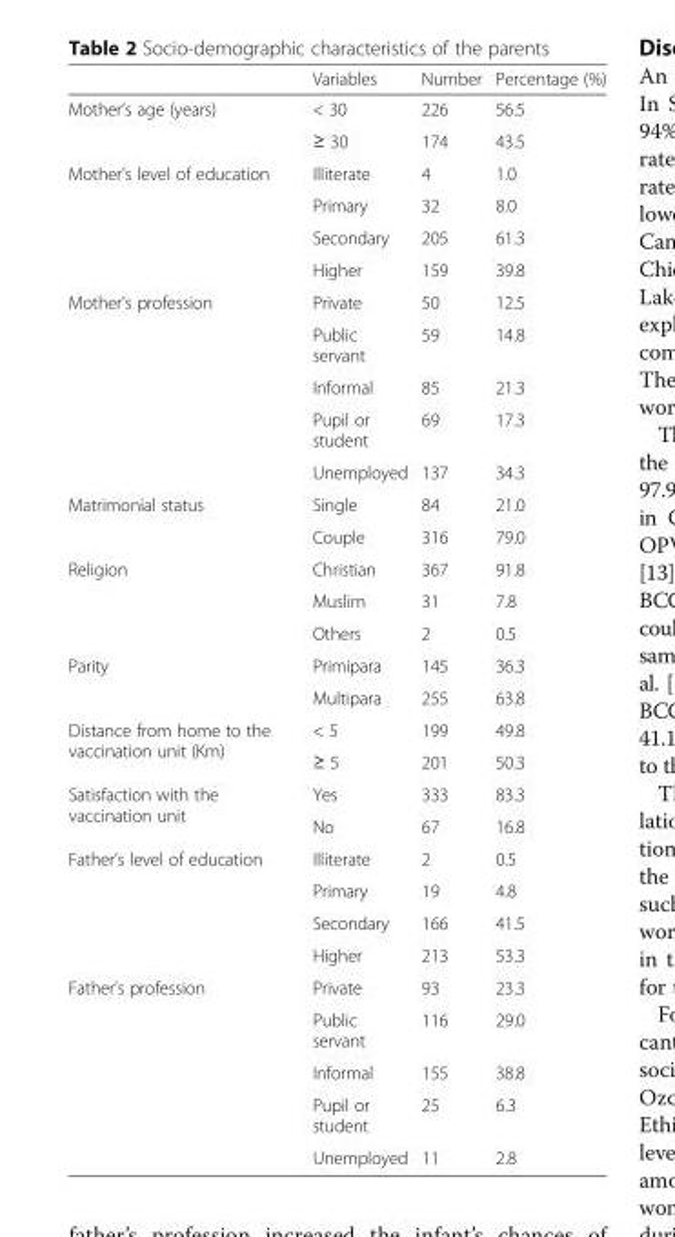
<table><thead><tr><td></td><td>Variables</td><td>Number</td><td>Percentage (%)</td></tr></thead><tbody><tr><td rowspan="2">Mother’s age (years)</td><td>&lt; 30</td><td>226</td><td>56.5</td></tr><tr><td>≥ 30</td><td>174</td><td>43.5</td></tr><tr><td rowspan="4">Mother’s level of education</td><td>Illiterate</td><td>4</td><td>1.0</td></tr><tr><td>Primary</td><td>32</td><td>8.0</td></tr><tr><td>Secondary</td><td>205</td><td>61.3</td></tr><tr><td>Higher</td><td>159</td><td>39.8</td></tr><tr><td rowspan="5">Mother’s profession</td><td>Private</td><td>50</td><td>12.5</td></tr><tr><td>Public servant</td><td>59</td><td>14.8</td></tr><tr><td>Informal</td><td>85</td><td>21.3</td></tr><tr><td>Pupil or student</td><td>69</td><td>17.3</td></tr><tr><td>Unemployed</td><td>137</td><td>34.3</td></tr><tr><td rowspan="2">Matrimonial status</td><td>Single</td><td>84</td><td>21.0</td></tr><tr><td>Couple</td><td>316</td><td>79.0</td></tr><tr><td rowspan="3">Religion</td><td>Christian</td><td>367</td><td>91.8</td></tr><tr><td>Muslim</td><td>31</td><td>7.8</td></tr><tr><td>Others</td><td>2</td><td>0.5</td></tr><tr><td rowspan="2">Parity</td><td>Primipara</td><td>145</td><td>36.3</td></tr><tr><td>Multipara</td><td>255</td><td>63.8</td></tr><tr><td rowspan="2">Distance from home to the vaccination unit (Km)</td><td>&lt; 5</td><td>199</td><td>49.8</td></tr><tr><td>≥ 5</td><td>201</td><td>50.3</td></tr><tr><td rowspan="2">Satisfaction with the vaccination unit</td><td>Yes</td><td>333</td><td>83.3</td></tr><tr><td>No</td><td>67</td><td>16.8</td></tr><tr><td rowspan="4">Father’s level of education</td><td>Illiterate</td><td>2</td><td>0.5</td></tr><tr><td>Primary</td><td>19</td><td>4.8</td></tr><tr><td>Secondary</td><td>166</td><td>41.5</td></tr><tr><td>Higher</td><td>213</td><td>53.3</td></tr><tr><td rowspan="5">Father’s profession</td><td>Private</td><td>93</td><td>23.3</td></tr><tr><td>Public servant</td><td>116</td><td>29.0</td></tr><tr><td>Informal</td><td>155</td><td>38.8</td></tr><tr><td>Pupil or student</td><td>25</td><td>6.3</td></tr><tr><td>Unemployed</td><td>11</td><td>2.8</td></tr></tbody></table>